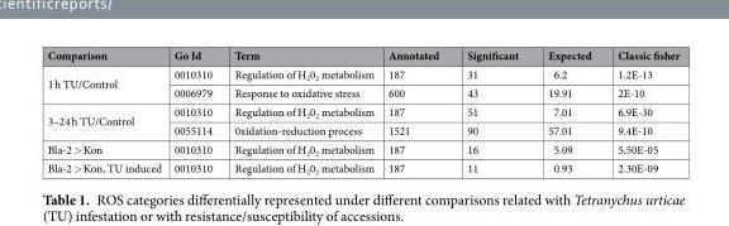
<table><thead><tr><td>Comparison</td><td>Go Id</td><td>Term</td><td>Annotated</td><td>Significant</td><td>Expected</td><td>Classic fisher</td></tr></thead><tbody><tr><td rowspan="2">1 h TU/Control</td><td>0010310</td><td>Regulation of H<sub>2</sub>0<sub>2</sub> metabolism</td><td>187</td><td>31</td><td>6.2</td><td>1.2E-13</td></tr><tr><td>0006979</td><td>Response to oxidative stress</td><td>600</td><td>43</td><td>19.91</td><td>2E-10</td></tr><tr><td rowspan="2">3–24 h TU/Control</td><td>0010310</td><td>Regulation of H<sub>2</sub>0<sub>2</sub> metabolism</td><td>187</td><td>51</td><td>7.01</td><td>6.9E-30</td></tr><tr><td>0055114</td><td>0xidation-reduction process</td><td>1521</td><td>90</td><td>57.01</td><td>9.4E-10</td></tr><tr><td>Bla-2 &gt; Kon</td><td>0010310</td><td>Regulation of H<sub>2</sub>0<sub>2</sub> metabolism</td><td>187</td><td>16</td><td>5.09</td><td>5.50E-05</td></tr><tr><td>Bla-2 &gt; Kon, TU induced</td><td>0010310</td><td>Regulation of H<sub>2</sub>0<sub>2</sub> metabolism</td><td>187</td><td>11</td><td>0.93</td><td>2.30E-09</td></tr></tbody></table>